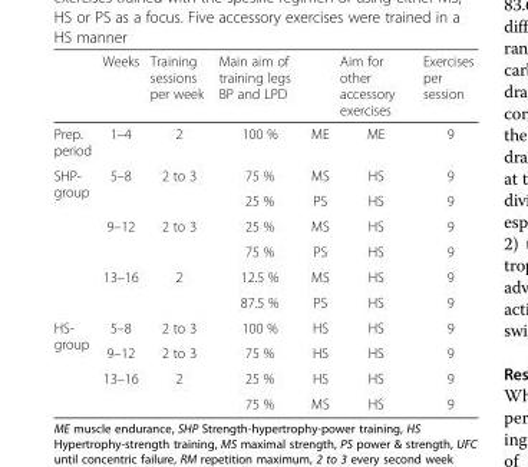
<table><thead><tr><td></td><td>Weeks</td><td>Training sessions per week</td><td>Main aim of training legs BP and LPD</td><td></td><td>Aim for other accessory exercises</td><td>Exercises per session</td></tr></thead><tbody><tr><td>Prep. period</td><td>1–4</td><td>2</td><td>100 %</td><td>ME</td><td>ME</td><td>9</td></tr><tr><td rowspan="6">SHP- group</td><td>5–8</td><td>2 to 3</td><td>75 %</td><td>MS</td><td>HS</td><td>9</td></tr><tr><td></td><td></td><td>25 %</td><td>PS</td><td>HS</td><td>9</td></tr><tr><td>9–12</td><td>2 to 3</td><td>25 %</td><td>MS</td><td>HS</td><td>9</td></tr><tr><td></td><td></td><td>75 %</td><td>PS</td><td>HS</td><td>9</td></tr><tr><td>13–16</td><td>2</td><td>12.5 %</td><td>MS</td><td>HS</td><td>9</td></tr><tr><td></td><td></td><td>87.5 %</td><td>PS</td><td>HS</td><td>9</td></tr><tr><td rowspan="4">HS- group</td><td>5–8</td><td>2 to 3</td><td>100 %</td><td>HS</td><td>HS</td><td>9</td></tr><tr><td>9–12</td><td>2 to 3</td><td>75 %</td><td>HS</td><td>HS</td><td>9</td></tr><tr><td>13–16</td><td>2</td><td>25 %</td><td>HS</td><td>HS</td><td>9</td></tr><tr><td></td><td></td><td>75 %</td><td>MS</td><td>HS</td><td>9</td></tr></tbody></table>